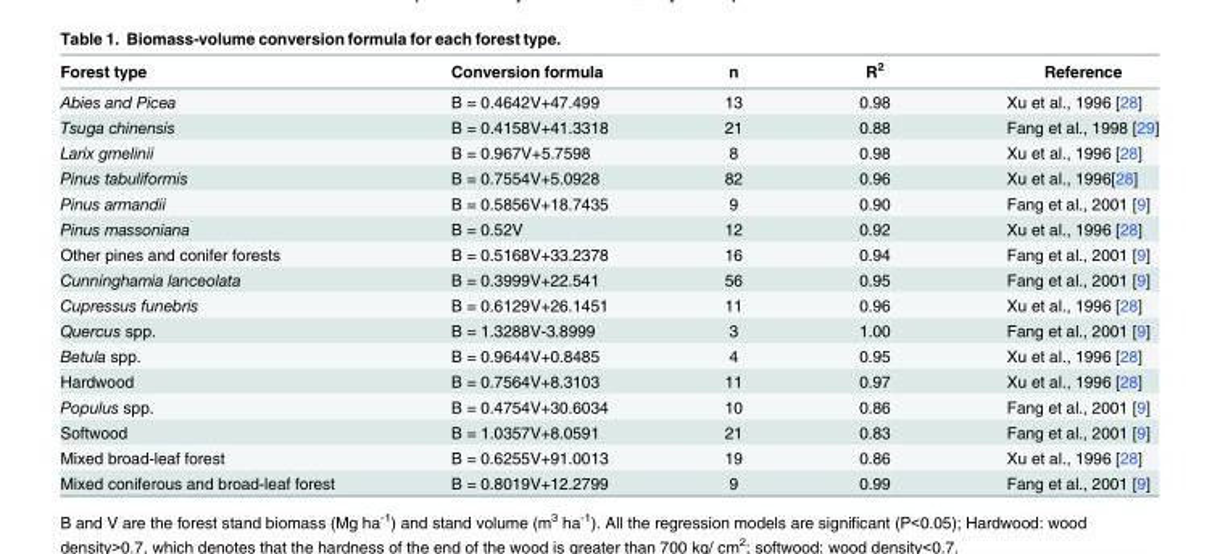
<table><thead><tr><td>Forest type</td><td>Conversion formula</td><td>n</td><td>R<sup>2</sup></td><td>Reference</td></tr></thead><tbody><tr><td>Abies and Picea</td><td>B = 0.4642V+47.499</td><td>13</td><td>0.98</td><td>Xu et al., 1996 [28]</td></tr><tr><td>Tsuga chinensis</td><td>B = 0.4158V+41.3318</td><td>21</td><td>0.88</td><td>Fang et al., 1998 [29]</td></tr><tr><td>Larix gmelinii</td><td>B = 0.967V+5.7598</td><td>8</td><td>0.98</td><td>Xu et al., 1996 [28]</td></tr><tr><td>Pinus tabuliformis</td><td>B = 0.7554V+5.0928</td><td>82</td><td>0.96</td><td>Xu et al., 1996[28]</td></tr><tr><td>Pinus armandii</td><td>B = 0.5856V+18.7435</td><td>9</td><td>0.90</td><td>Fang et al., 2001 [9]</td></tr><tr><td>Pinus massoniana</td><td>B = 0.52V</td><td>12</td><td>0.92</td><td>Xu et al., 1996 [28]</td></tr><tr><td>Other pines and conifer forests</td><td>B = 0.5168V+33.2378</td><td>16</td><td>0.94</td><td>Fang et al., 2001 [9]</td></tr><tr><td>Cunninghamia lanceolata</td><td>B = 0.3999V+22.541</td><td>56</td><td>0.95</td><td>Fang et al., 2001 [9]</td></tr><tr><td>Cupressus funebris</td><td>B = 0.6129V+26.1451</td><td>11</td><td>0.96</td><td>Xu et al., 1996 [28]</td></tr><tr><td>Quercus spp.</td><td>B = 1.3288V-3.8999</td><td>3</td><td>1.00</td><td>Fang et al., 2001 [9]</td></tr><tr><td>Betula spp.</td><td>B = 0.9644V+0.8485</td><td>4</td><td>0.95</td><td>Xu et al., 1996 [28]</td></tr><tr><td>Hardwood</td><td>B = 0.7564V+8.3103</td><td>11</td><td>0.97</td><td>Xu et al., 1996 [28]</td></tr><tr><td>Populus spp.</td><td>B = 0.4754V+30.6034</td><td>10</td><td>0.86</td><td>Fang et al., 2001 [9]</td></tr><tr><td>Softwood</td><td>B = 1.0357V+8.0591</td><td>21</td><td>0.83</td><td>Fang et al., 2001 [9]</td></tr><tr><td>Mixed broad-leaf forest</td><td>B = 0.6255V+91.0013</td><td>19</td><td>0.86</td><td>Xu et al., 1996 [28]</td></tr><tr><td>Mixed coniferous and broad-leaf forest</td><td>B = 0.8019V+12.2799</td><td>9</td><td>0.99</td><td>Fang et al., 2001 [9]</td></tr></tbody></table>